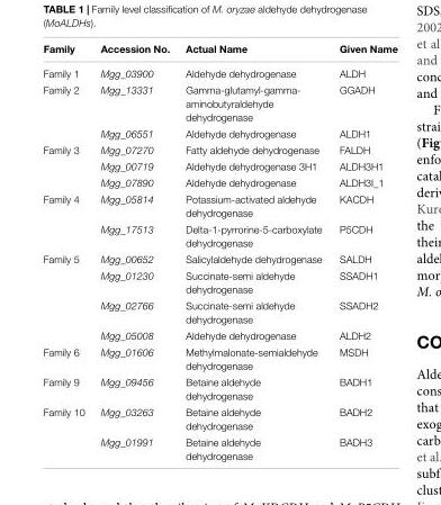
<table><thead><tr><td>Family</td><td>Accession No.</td><td>Actual Name</td><td>Given Name</td></tr></thead><tbody><tr><td>Family 1</td><td>Mgg_03900</td><td>Aldehyde dehydrogenase</td><td>ALDH</td></tr><tr><td rowspan="2">Family 2</td><td>Mgg_13331</td><td>Gamma-glutamyl-gamma- aminobutyraldehyde dehydrogenase</td><td>GGADH</td></tr><tr><td>Mgg_06551</td><td>Aldehyde dehydrogenase</td><td>ALDH1</td></tr><tr><td rowspan="3">Family 3</td><td>Mgg_07270</td><td>Fatty aldehyde dehydrogenase</td><td>FALDH</td></tr><tr><td>Mgg_00719</td><td>Aldehyde dehydrogenase 3H1</td><td>ALDH3H1</td></tr><tr><td>Mgg_07890</td><td>Aldehyde dehydrogenase</td><td>ALDH3I_1</td></tr><tr><td rowspan="2">Family 4</td><td>Mgg_05814</td><td>Potassium-activated aldehyde dehydrogenase</td><td>KACDH</td></tr><tr><td>Mgg_17513</td><td>Delta-1-pyrrorine-5-carboxylate dehydrogenase</td><td>P5CDH</td></tr><tr><td rowspan="4">Family 5</td><td>Mgg_00652</td><td>Salicylaldehyde dehydrogenase</td><td>SALDH</td></tr><tr><td>Mgg_01230</td><td>Succinate-semi aldehyde dehydrogenase</td><td>SSADH1</td></tr><tr><td>Mgg_02766</td><td>Succinate-semi aldehyde dehydrogenase</td><td>SSADH2</td></tr><tr><td>Mgg_05008</td><td>Aldehyde dehydrogenase</td><td>ALDH2</td></tr><tr><td>Family 6</td><td>Mgg_01606</td><td>Methylmalonate-semialdehyde dehydrogenase</td><td>MSDH</td></tr><tr><td>Family 9</td><td>Mgg_09456</td><td>Betaine aldehyde dehydrogenase</td><td>BADH1</td></tr><tr><td rowspan="2">Family 10</td><td>Mgg_03263</td><td>Betaine aldehyde dehydrogenase</td><td>BADH2</td></tr><tr><td>Mgg_01991</td><td>Betaine aldehyde dehydrogenase</td><td>BADH3</td></tr></tbody></table>